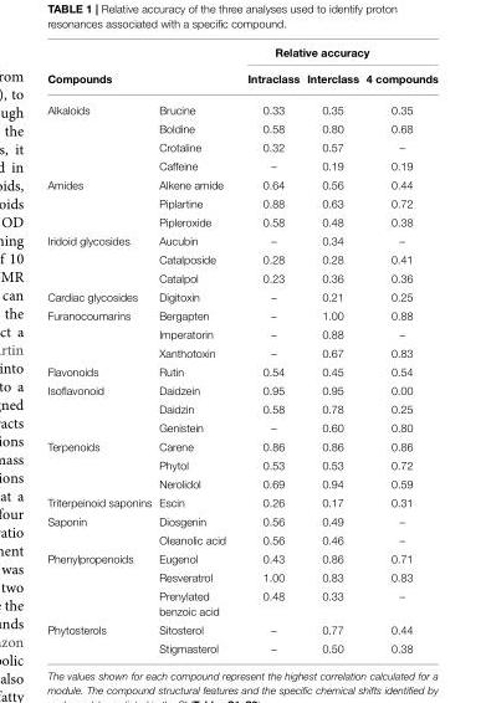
<table><thead><tr><td rowspan="2">Compounds</td><td rowspan="2"></td><td colspan="3">Relative accuracy</td></tr><tr><td>Intraclass</td><td>Interclass</td><td>4 compounds</td></tr></thead><tbody><tr><td rowspan="4">Alkaloids</td><td>Brucine</td><td>0.33</td><td>0.35</td><td>0.35</td></tr><tr><td>Boldine</td><td>0.58</td><td>0.80</td><td>0.68</td></tr><tr><td>Crotaline</td><td>0.32</td><td>0.57</td><td>–</td></tr><tr><td>Caffeine</td><td>–</td><td>0.19</td><td>0.19</td></tr><tr><td rowspan="3">Amides</td><td>Alkene amide</td><td>0.64</td><td>0.56</td><td>0.44</td></tr><tr><td>Piplartine</td><td>0.88</td><td>0.63</td><td>0.72</td></tr><tr><td>Pipleroxide</td><td>0.58</td><td>0.48</td><td>0.38</td></tr><tr><td rowspan="3">Iridoid glycosides</td><td>Aucubin</td><td>–</td><td>0.34</td><td>–</td></tr><tr><td>Catalposide</td><td>0.28</td><td>0.28</td><td>0.41</td></tr><tr><td>Catalpol</td><td>0.23</td><td>0.36</td><td>0.36</td></tr><tr><td>Cardiac glycosides</td><td>Digitoxin</td><td>–</td><td>0.21</td><td>0.25</td></tr><tr><td rowspan="3">Furanocoumarins</td><td>Bergapten</td><td>–</td><td>1.00</td><td>0.88</td></tr><tr><td>Imperatorin</td><td>–</td><td>0.88</td><td>–</td></tr><tr><td>Xanthotoxin</td><td>–</td><td>0.67</td><td>0.83</td></tr><tr><td>Flavonoids</td><td>Rutin</td><td>0.54</td><td>0.45</td><td>0.54</td></tr><tr><td rowspan="3">Isoflavonoid</td><td>Daidzein</td><td>0.95</td><td>0.95</td><td>0.00</td></tr><tr><td>Daidzin</td><td>0.58</td><td>0.78</td><td>0.25</td></tr><tr><td>Genistein</td><td>–</td><td>0.60</td><td>0.80</td></tr><tr><td rowspan="3">Terpenoids</td><td>Carene</td><td>0.86</td><td>0.86</td><td>0.86</td></tr><tr><td>Phytol</td><td>0.53</td><td>0.53</td><td>0.72</td></tr><tr><td>Nerolidol</td><td>0.69</td><td>0.94</td><td>0.59</td></tr><tr><td>Triterpeinoid saponins</td><td>Escin</td><td>0.26</td><td>0.17</td><td>0.31</td></tr><tr><td rowspan="2">Saponin</td><td>Diosgenin</td><td>0.56</td><td>0.49</td><td>–</td></tr><tr><td>Oleanolic acid</td><td>0.56</td><td>0.46</td><td>–</td></tr><tr><td rowspan="3">Phenylpropenoids</td><td>Eugenol</td><td>0.43</td><td>0.86</td><td>0.71</td></tr><tr><td>Resveratrol</td><td>1.00</td><td>0.83</td><td>0.83</td></tr><tr><td>Prenylated benzoic acid</td><td>0.48</td><td>0.33</td><td>–</td></tr><tr><td rowspan="2">Phytosterols</td><td>Sitosterol</td><td>–</td><td>0.77</td><td>0.44</td></tr><tr><td>Stigmasterol</td><td>–</td><td>0.50</td><td>0.38</td></tr></tbody></table>